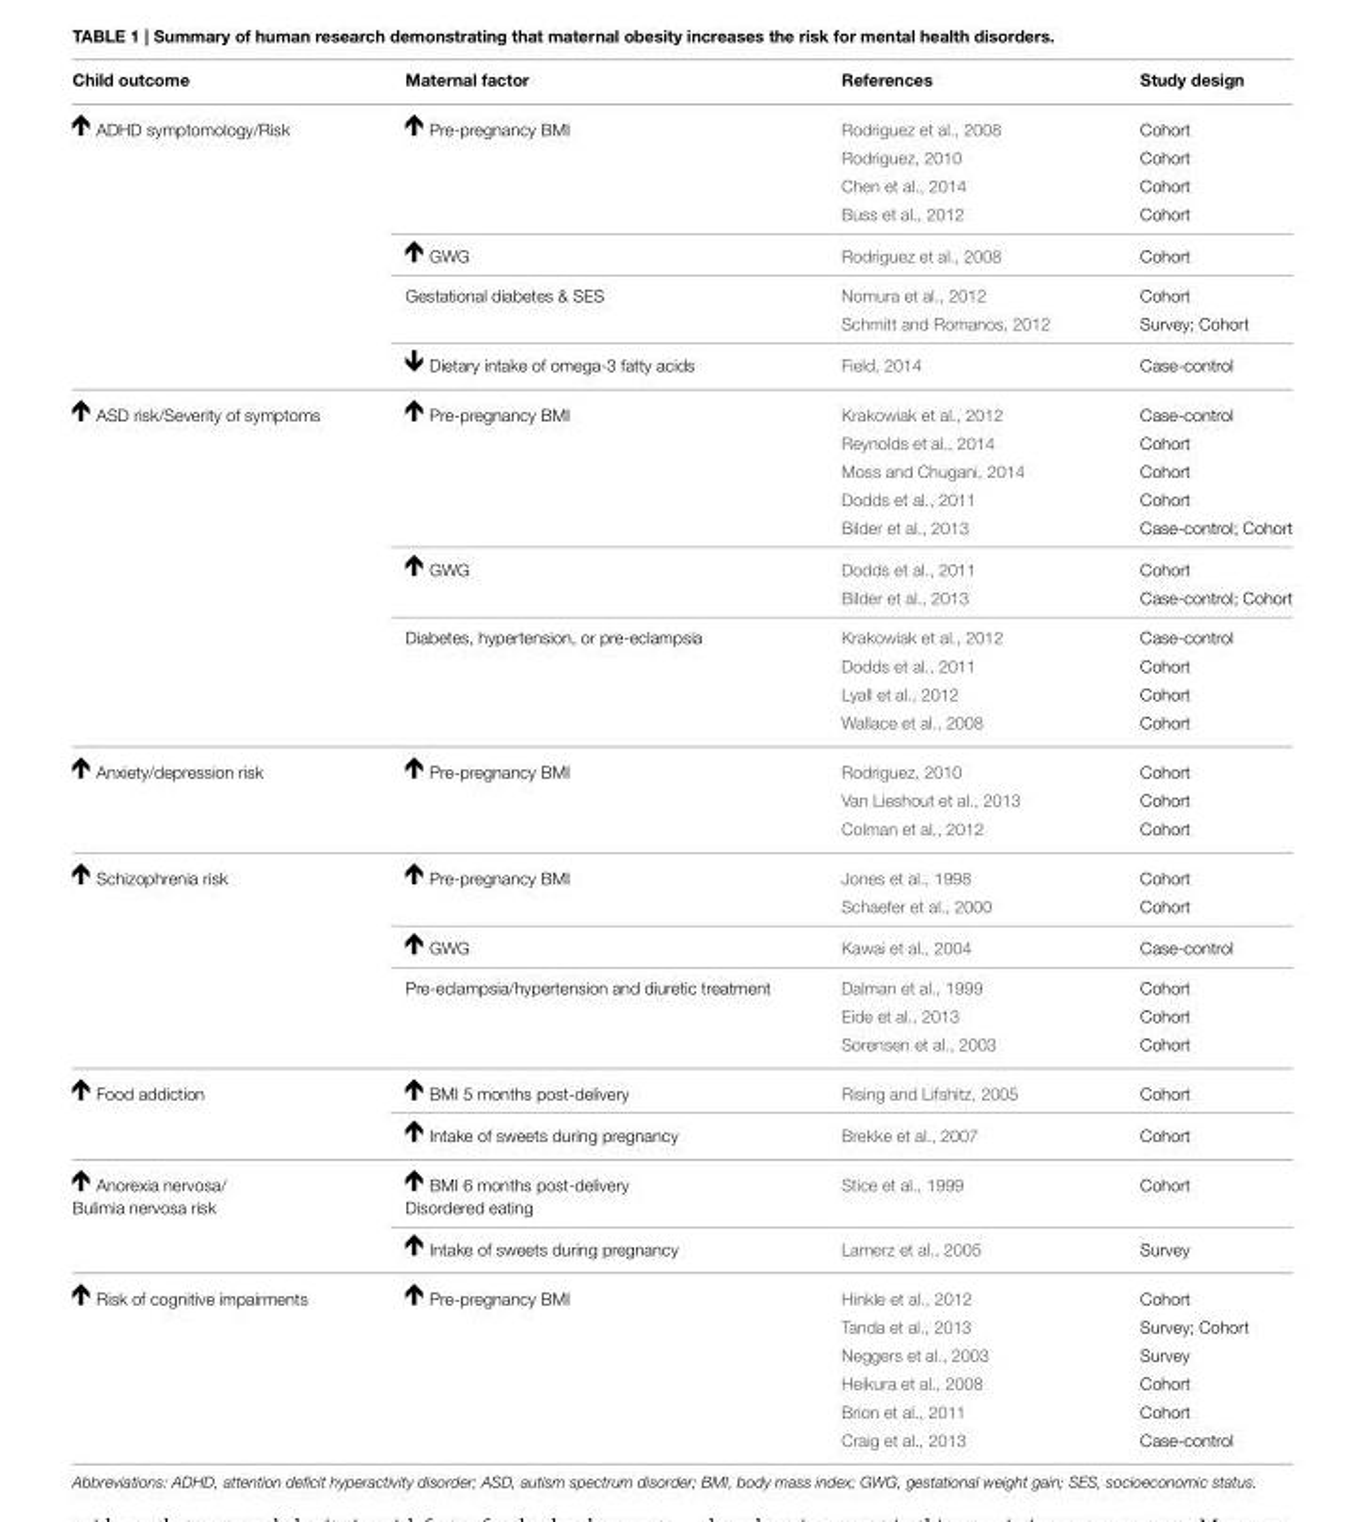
<table><thead><tr><td>Child outcome</td><td>Maternal factor</td><td>References</td><td>Study design</td></tr></thead><tbody><tr><td rowspan="8">ADHD symptomology/Risk</td><td>Pre-pregnancy BMI</td><td>Rodriguez et al., 2008</td><td>Cohort</td></tr><tr><td></td><td>Rodriguez, 2010</td><td>Cohort</td></tr><tr><td></td><td>Chen et al., 2014</td><td>Cohort</td></tr><tr><td></td><td>Buss et al., 2012</td><td>Cohort</td></tr><tr><td>GWG</td><td>Rodriguez et al., 2008</td><td>Cohort</td></tr><tr><td>Gestational diabetes &amp; SES</td><td>Nomura et al., 2012</td><td>Cohort</td></tr><tr><td></td><td>Schmitt and Romanos, 2012</td><td>Survey; Cohort</td></tr><tr><td>Dietary intake of omega-3 fatty acids</td><td>Field, 2014</td><td>Case-control</td></tr><tr><td rowspan="11">ASD risk/Severity of symptoms</td><td>Pre-pregnancy BMI</td><td>Krakowiak et al., 2012</td><td>Case-control</td></tr><tr><td></td><td>Reynolds et al., 2014</td><td>Cohort</td></tr><tr><td></td><td>Moss and Chugani, 2014</td><td>Cohort</td></tr><tr><td></td><td>Dodds et al., 2011</td><td>Cohort</td></tr><tr><td></td><td>Bilder et al., 2013</td><td>Case-control; Cohort</td></tr><tr><td>GWG</td><td>Dodds et al., 2011</td><td>Cohort</td></tr><tr><td></td><td>Bilder et al., 2013</td><td>Case-control; Cohort</td></tr><tr><td>Diabetes, hypertension, or pre-eclampsia</td><td>Krakowiak et al., 2012</td><td>Case-control</td></tr><tr><td></td><td>Dodds et al., 2011</td><td>Cohort</td></tr><tr><td></td><td>Lyall et al., 2012</td><td>Cohort</td></tr><tr><td></td><td>Wallace et al., 2008</td><td>Cohort</td></tr><tr><td rowspan="3">Anxiety/depression risk</td><td>Pre-pregnancy BMI</td><td>Rodriguez, 2010</td><td>Cohort</td></tr><tr><td></td><td>Van Lieshout et al., 2013</td><td>Cohort</td></tr><tr><td></td><td>Colman et al., 2012</td><td>Cohort</td></tr><tr><td rowspan="6">Schizophrenia risk</td><td>Pre-pregnancy BMI</td><td>Jones et al., 1998</td><td>Cohort</td></tr><tr><td></td><td>Schaefer et al., 2000</td><td>Cohort</td></tr><tr><td>GWG</td><td>Kawai et al., 2004</td><td>Case-control</td></tr><tr><td>Pre-eclampsia/hypertension and diuretic treatment</td><td>Dalman et al., 1999</td><td>Cohort</td></tr><tr><td></td><td>Eide et al., 2013</td><td>Cohort</td></tr><tr><td></td><td>Sorensen et al., 2003</td><td>Cohort</td></tr><tr><td rowspan="2">Food addiction</td><td>BMI 5 months post-delivery</td><td>Rising and Lifshitz, 2005</td><td>Cohort</td></tr><tr><td>Intake of sweets during pregnancy</td><td>Brekke et al., 2007</td><td>Cohort</td></tr><tr><td rowspan="2">Anorexia nervosa/ Bulimia nervosa risk</td><td>BMI 6 months post-delivery Disordered eating</td><td>Stice et al., 1999</td><td>Cohort</td></tr><tr><td>Intake of sweets during pregnancy</td><td>Lamerz et al., 2005</td><td>Survey</td></tr><tr><td rowspan="6">Risk of cognitive impairments</td><td>Pre-pregnancy BMI</td><td>Hinkle et al., 2012</td><td>Cohort</td></tr><tr><td></td><td>Tanda et al., 2013</td><td>Survey; Cohort</td></tr><tr><td></td><td>Neggers et al., 2003</td><td>Survey</td></tr><tr><td></td><td>Heikura et al., 2008</td><td>Cohort</td></tr><tr><td></td><td>Brion et al., 2011</td><td>Cohort</td></tr><tr><td></td><td>Craig et al., 2013</td><td>Case-control</td></tr></tbody></table>